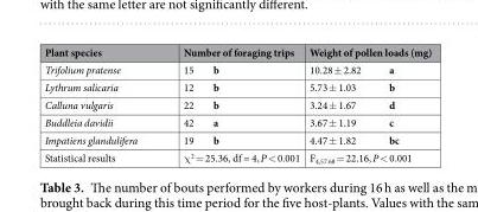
<table><thead><tr><td rowspan="2">Plant species Trifolium pratense</td><td colspan="2">Number of foraging trips</td><td colspan="2">Weight of pollen loads (mg)</td></tr><tr><td>15</td><td>b</td><td>10.28 ± 2.82</td><td>a</td></tr></thead><tbody><tr><td>Lythrum salicaria</td><td>12</td><td>b</td><td>5.73 ± 1.03</td><td>b</td></tr><tr><td>Calluna vulgaris</td><td>22</td><td>b</td><td>3.24 ± 1.67</td><td>d</td></tr><tr><td>Buddleia davidii</td><td>42</td><td>a</td><td>3.67 ± 1.19</td><td>c</td></tr><tr><td>Impatiens glandulifera</td><td>19</td><td>b</td><td>4.47 ± 1.82</td><td>bc</td></tr><tr><td>Statistical results</td><td colspan="2">χ<sup>2</sup> = 25.36, df = 4, P &lt; 0.001</td><td colspan="2">F<sub>4,57.68</sub> = 22.16, P &lt; 0.001</td></tr></tbody></table>